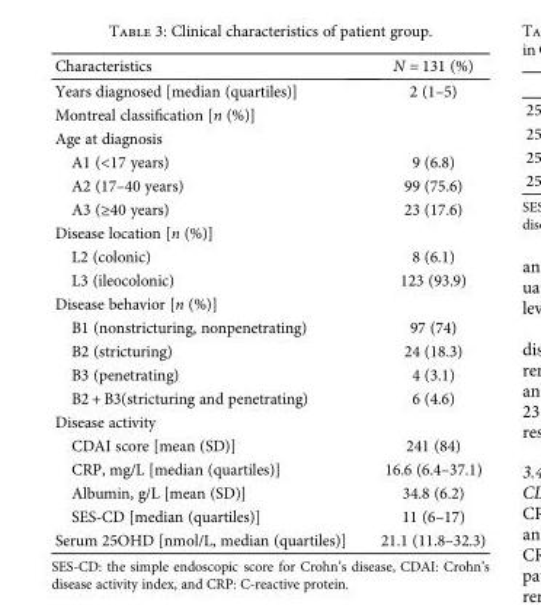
<table><thead><tr><td>Characteristics</td><td>N = 131 (%)</td></tr></thead><tbody><tr><td>Years diagnosed [median (quartiles)]</td><td>2 (1–5)</td></tr><tr><td colspan="2">Montreal classification [n (%)]</td></tr><tr><td colspan="2">Age at diagnosis</td></tr><tr><td>A1 (&lt;17 years)</td><td>9 (6.8)</td></tr><tr><td>A2 (17–40 years)</td><td>99 (75.6)</td></tr><tr><td>A3 (≥40 years)</td><td>23 (17.6)</td></tr><tr><td colspan="2">Disease location [n (%)]</td></tr><tr><td>L2 (colonic)</td><td>8 (6.1)</td></tr><tr><td>L3 (ileocolonic)</td><td>123 (93.9)</td></tr><tr><td colspan="2">Disease behavior [n (%)]</td></tr><tr><td>B1 (nonstricturing, nonpenetrating)</td><td>97 (74)</td></tr><tr><td>B2 (stricturing)</td><td>24 (18.3)</td></tr><tr><td>B3 (penetrating)</td><td>4 (3.1)</td></tr><tr><td>B2 + B3(stricturing and penetrating)</td><td>6 (4.6)</td></tr><tr><td colspan="2">Disease activity</td></tr><tr><td>CDAI score [mean (SD)]</td><td>241 (84)</td></tr><tr><td>CRP, mg/L [median (quartiles)]</td><td>16.6 (6.4–37.1)</td></tr><tr><td>Albumin, g/L [mean (SD)]</td><td>34.8 (6.2)</td></tr><tr><td>SES-CD [median (quartiles)]</td><td>11 (6–17)</td></tr><tr><td>Serum 25OHD [nmol/L, median (quartiles)]</td><td>21.1 (11.8–32.3)</td></tr></tbody></table>